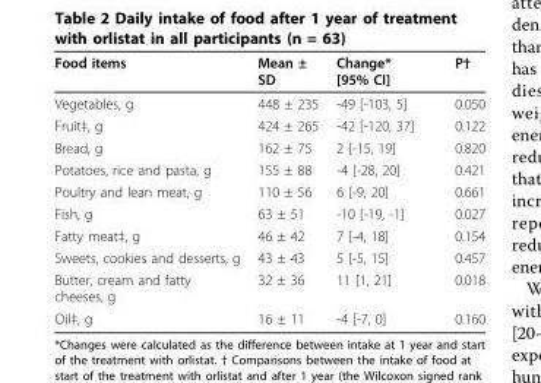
<table><thead><tr><td>Food items</td><td>Mean ± SD</td><td>Change* [95% CI]</td><td>P†</td></tr></thead><tbody><tr><td>Vegetables, g</td><td>448 ± 235</td><td>-49 [-103, 5]</td><td>0.050</td></tr><tr><td>Fruit‡, g</td><td>424 ± 265</td><td>-42 [-120, 37]</td><td>0.122</td></tr><tr><td>Bread, g</td><td>162 ± 75</td><td>2 [-15, 19]</td><td>0.820</td></tr><tr><td>Potatoes, rice and pasta, g</td><td>155 ± 88</td><td>-4 [-28, 20]</td><td>0.421</td></tr><tr><td>Poultry and lean meat, g</td><td>110 ± 56</td><td>6 [-9, 20]</td><td>0.661</td></tr><tr><td>Fish, g</td><td>63 ± 51</td><td>-10 [-19, -1]</td><td>0.027</td></tr><tr><td>Fatty meat‡, g</td><td>46 ± 42</td><td>7 [-4, 18]</td><td>0.154</td></tr><tr><td>Sweets, cookies and desserts, g</td><td>43 ± 43</td><td>5 [-5, 15]</td><td>0.457</td></tr><tr><td>Butter, cream and fatty cheeses, g</td><td>32 ± 36</td><td>11 [1, 21]</td><td>0.018</td></tr><tr><td>Oil‡, g</td><td>16 ± 11</td><td>-4 [-7, 0]</td><td>0.160</td></tr></tbody></table>